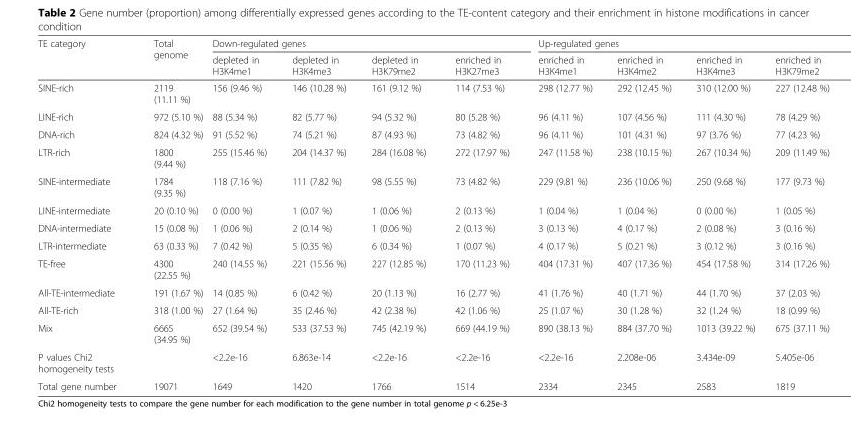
<table><thead><tr><td rowspan="2">TE category</td><td rowspan="2">Total genome</td><td colspan="4">Down-regulated genes</td><td colspan="4">Up-regulated genes</td></tr><tr><td>depleted in H3K4me1</td><td>depleted in H3K4me3</td><td>depleted in H3K79me2</td><td>enriched in H3K27me3</td><td>enriched in H3K4me1</td><td>enriched in H3K4me2</td><td>enriched in H3K4me3</td><td>enriched in H3K79me2</td></tr></thead><tbody><tr><td>SINE-rich</td><td>2119 (11.11 %)</td><td>156 (9.46 %)</td><td>146 (10.28 %)</td><td>161 (9.12 %)</td><td>114 (7.53 %)</td><td>298 (12.77 %)</td><td>292 (12.45 %)</td><td>310 (12.00 %)</td><td>227 (12.48 %)</td></tr><tr><td>LINE-rich</td><td>972 (5.10 %)</td><td>88 (5.34 %)</td><td>82 (5.77 %)</td><td>94 (5.32 %)</td><td>80 (5.28 %)</td><td>96 (4.11 %)</td><td>107 (4.56 %)</td><td>111 (4.30 %)</td><td>78 (4.29 %)</td></tr><tr><td>DNA-rich</td><td>824 (4.32 %)</td><td>91 (5.52 %)</td><td>74 (5.21 %)</td><td>87 (4.93 %)</td><td>73 (4.82 %)</td><td>96 (4.11 %)</td><td>101 (4.31 %)</td><td>97 (3.76 %)</td><td>77 (4.23 %)</td></tr><tr><td>LTR-rich</td><td>1800 (9.44 %)</td><td>255 (15.46 %)</td><td>204 (14.37 %)</td><td>284 (16.08 %)</td><td>272 (17.97 %)</td><td>247 (11.58 %)</td><td>238 (10.15 %)</td><td>267 (10.34 %)</td><td>209 (11.49 %)</td></tr><tr><td>SINE-intermediate</td><td>1784 (9.35 %)</td><td>118 (7.16 %)</td><td>111 (7.82 %)</td><td>98 (5.55 %)</td><td>73 (4.82 %)</td><td>229 (9.81 %)</td><td>236 (10.06 %)</td><td>250 (9.68 %)</td><td>177 (9.73 %)</td></tr><tr><td>LINE-intermediate</td><td>20 (0.10 %)</td><td>0 (0.00 %)</td><td>1 (0.07 %)</td><td>1 (0.06 %)</td><td>2 (0.13 %)</td><td>1 (0.04 %)</td><td>1 (0.04 %)</td><td>0 (0.00 %)</td><td>1 (0.05 %)</td></tr><tr><td>DNA-intermediate</td><td>15 (0.08 %)</td><td>1 (0.06 %)</td><td>2 (0.14 %)</td><td>1 (0.06 %)</td><td>2 (0.13 %)</td><td>3 (0.13 %)</td><td>4 (0.17 %)</td><td>2 (0.08 %)</td><td>3 (0.16 %)</td></tr><tr><td>LTR-intermediate</td><td>63 (0.33 %)</td><td>7 (0.42 %)</td><td>5 (0.35 %)</td><td>6 (0.34 %)</td><td>1 (0.07 %)</td><td>4 (0.17 %)</td><td>5 (0.21 %)</td><td>3 (0.12 %)</td><td>3 (0.16 %)</td></tr><tr><td>TE-free</td><td>4300 (22.55 %)</td><td>240 (14.55 %)</td><td>221 (15.56 %)</td><td>227 (12.85 %)</td><td>170 (11.23 %)</td><td>404 (17.31 %)</td><td>407 (17.36 %)</td><td>454 (17.58 %)</td><td>314 (17.26 %)</td></tr><tr><td>All-TE-intermediate</td><td>191 (1.67 %)</td><td>14 (0.85 %)</td><td>6 (0.42 %)</td><td>20 (1.13 %)</td><td>16 (2.77 %)</td><td>41 (1.76 %)</td><td>40 (1.71 %)</td><td>44 (1.70 %)</td><td>37 (2.03 %)</td></tr><tr><td>All-TE-rich</td><td>318 (1.00 %)</td><td>27 (1.64 %)</td><td>35 (2.46 %)</td><td>42 (2.38 %)</td><td>42 (1.06 %)</td><td>25 (1.07 %)</td><td>30 (1.28 %)</td><td>32 (1.24 %)</td><td>18 (0.99 %)</td></tr><tr><td>Mix</td><td>6665 (34.95 %)</td><td>652 (39.54 %)</td><td>533 (37.53 %)</td><td>745 (42.19 %)</td><td>669 (44.19 %)</td><td>890 (38.13 %)</td><td>884 (37.70 %)</td><td>1013 (39.22 %)</td><td>675 (37.11 %)</td></tr><tr><td>P values Chi2 homogeneity tests</td><td></td><td>&lt;2.2e-16</td><td>6.863e-14</td><td>&lt;2.2e-16</td><td>&lt;2.2e-16</td><td>&lt;2.2e-16</td><td>2.208e-06</td><td>3.434e-09</td><td>5.405e-06</td></tr><tr><td>Total gene number</td><td>19071</td><td>1649</td><td>1420</td><td>1766</td><td>1514</td><td>2334</td><td>2345</td><td>2583</td><td>1819</td></tr></tbody></table>